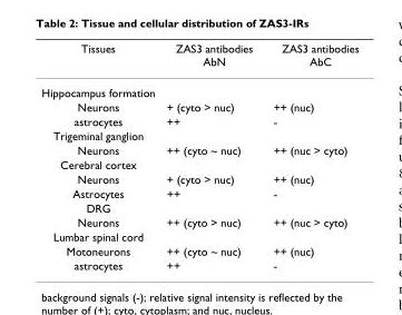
<table><thead><tr><td>Tissues</td><td>ZAS3 antibodies AbN</td><td>ZAS3 antibodies AbC</td></tr></thead><tbody><tr><td colspan="3">Hippocampus formation</td></tr><tr><td>Neurons</td><td>+ (cyto &gt; nuc)</td><td>++ (nuc)</td></tr><tr><td>astrocytes</td><td>++</td><td>-</td></tr><tr><td colspan="3">Trigeminal ganglion</td></tr><tr><td>Neurons</td><td>++ (cyto ~ nuc)</td><td>++ (nuc &gt; cyto)</td></tr><tr><td colspan="3">Cerebral cortex</td></tr><tr><td>Neurons</td><td>+ (cyto &gt; nuc)</td><td>++ (nuc)</td></tr><tr><td>Astrocytes</td><td>++</td><td>-</td></tr><tr><td colspan="3">DRG</td></tr><tr><td>Neurons</td><td>++ (cyto &gt; nuc)</td><td>++ (nuc &gt; cyto)</td></tr><tr><td colspan="3">Lumbar spinal cord</td></tr><tr><td>Motoneurons</td><td>++ (cyto ~ nuc)</td><td>++ (nuc)</td></tr><tr><td>astrocytes</td><td>++</td><td>-</td></tr></tbody></table>